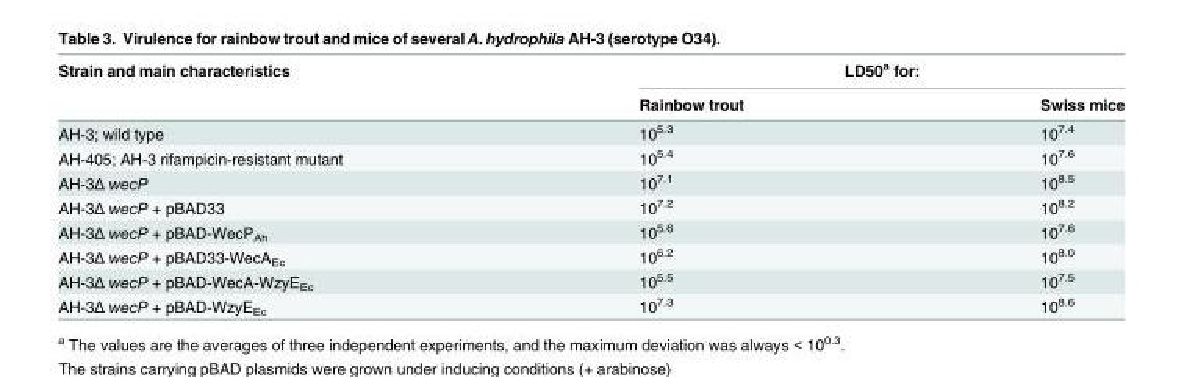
<table><thead><tr><td rowspan="2">Strain and main characteristics</td><td colspan="2">LD50<sup>a</sup> for:</td></tr><tr><td>Rainbow trout</td><td>Swiss mice</td></tr></thead><tbody><tr><td>AH-3; wild type</td><td>10<sup>5.3</sup></td><td>10<sup>7.4</sup></td></tr><tr><td>AH-405; AH-3 rifampicin-resistant mutant</td><td>10<sup>5.4</sup></td><td>10<sup>7.6</sup></td></tr><tr><td>AH-3Δ wecP</td><td>10<sup>7.1</sup></td><td>10<sup>8.5</sup></td></tr><tr><td>AH-3Δ wecP + pBAD33</td><td>10<sup>7.2</sup></td><td>10<sup>8.2</sup></td></tr><tr><td>AH-3Δ wecP + pBAD-WecP<sub>Ah</sub></td><td>10<sup>5.6</sup></td><td>10<sup>7.6</sup></td></tr><tr><td>AH-3Δ wecP + pBAD33-WecA<sub>Ec</sub></td><td>10<sup>6.2</sup></td><td>10<sup>8.0</sup></td></tr><tr><td>AH-3Δ wecP + pBAD-WecA-WzyE<sub>Ec</sub></td><td>10<sup>5.5</sup></td><td>10<sup>7.5</sup></td></tr><tr><td>AH-3Δ wecP + pBAD-WzyE<sub>Ec</sub></td><td>10<sup>7.3</sup></td><td>10<sup>8.6</sup></td></tr></tbody></table>